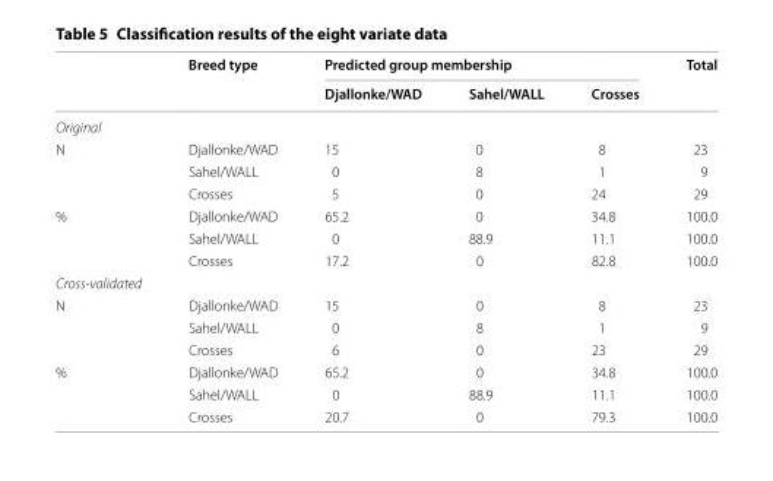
<table><thead><tr><td rowspan="2"></td><td rowspan="2">Breed type</td><td colspan="3">Predicted group membership</td><td rowspan="2">Total</td></tr><tr><td>Djallonke/WAD</td><td>Sahel/WALL</td><td>Crosses</td></tr></thead><tbody><tr><td colspan="6">Original</td></tr><tr><td rowspan="3">N</td><td>Djallonke/WAD</td><td>15</td><td>0</td><td>8</td><td>23</td></tr><tr><td>Sahel/WALL</td><td>0</td><td>8</td><td>1</td><td>9</td></tr><tr><td>Crosses</td><td>5</td><td>0</td><td>24</td><td>29</td></tr><tr><td rowspan="3">%</td><td>Djallonke/WAD</td><td>65.2</td><td>0</td><td>34.8</td><td>100.0</td></tr><tr><td>Sahel/WALL</td><td>0</td><td>88.9</td><td>11.1</td><td>100.0</td></tr><tr><td>Crosses</td><td>17.2</td><td>0</td><td>82.8</td><td>100.0</td></tr><tr><td colspan="6">Cross-validated</td></tr><tr><td rowspan="3">N</td><td>Djallonke/WAD</td><td>15</td><td>0</td><td>8</td><td>23</td></tr><tr><td>Sahel/WALL</td><td>0</td><td>8</td><td>1</td><td>9</td></tr><tr><td>Crosses</td><td>6</td><td>0</td><td>23</td><td>29</td></tr><tr><td rowspan="3">%</td><td>Djallonke/WAD</td><td>65.2</td><td>0</td><td>34.8</td><td>100.0</td></tr><tr><td>Sahel/WALL</td><td>0</td><td>88.9</td><td>11.1</td><td>100.0</td></tr><tr><td>Crosses</td><td>20.7</td><td>0</td><td>79.3</td><td>100.0</td></tr></tbody></table>